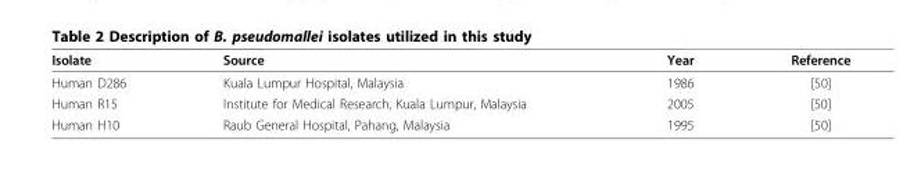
<table><thead><tr><td>Isolate</td><td>Source</td><td>Year</td><td>Reference</td></tr></thead><tbody><tr><td>Human D286</td><td>Kuala Lumpur Hospital, Malaysia</td><td>1986</td><td>[50]</td></tr><tr><td>Human R15</td><td>Institute for Medical Research, Kuala Lumpur, Malaysia</td><td>2005</td><td>[50]</td></tr><tr><td>Human H10</td><td>Raub General Hospital, Pahang, Malaysia</td><td>1995</td><td>[50]</td></tr></tbody></table>